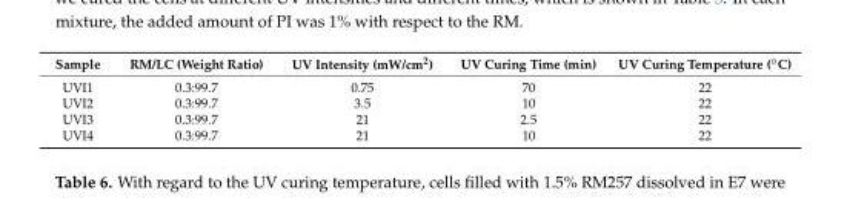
<table><thead><tr><td>Sample</td><td>RM/LC (Weight Ratio)</td><td>UV Intensity (mW/cm<sup>2</sup>)</td><td>UV Curing Time (min)</td><td>UV Curing Temperature (◦C)</td></tr></thead><tbody><tr><td>UVI1</td><td>0.3:99.7</td><td>0.75</td><td>70</td><td>22</td></tr><tr><td>UVI2</td><td>0.3:99.7</td><td>3.5</td><td>10</td><td>22</td></tr><tr><td>UVI3</td><td>0.3:99.7</td><td>21</td><td>2.5</td><td>22</td></tr><tr><td>UVI4</td><td>0.3:99.7</td><td>21</td><td>10</td><td>22</td></tr></tbody></table>